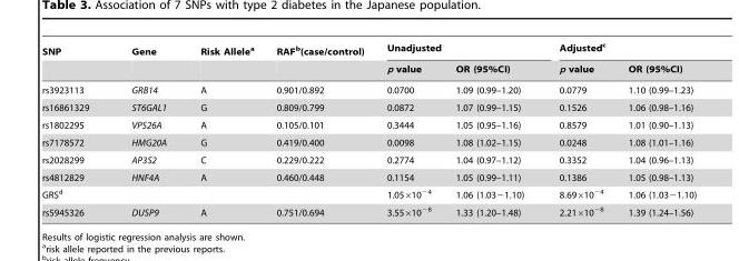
<table><thead><tr><td rowspan="2">SNP</td><td rowspan="2">Gene</td><td rowspan="2">Risk Allele<sup>a</sup></td><td rowspan="2">RAF<sup>b</sup>(case/control)</td><td colspan="2">Unadjusted</td><td colspan="2">Adjusted<sup>c</sup></td></tr><tr><td>p value</td><td>OR (95%CI)</td><td>p value</td><td>OR (95%CI)</td></tr></thead><tbody><tr><td>rs3923113</td><td>GRB14</td><td>A</td><td>0.901/0.892</td><td>0.0700</td><td>1.09 (0.99–1.20)</td><td>0.0779</td><td>1.10 (0.99–1.23)</td></tr><tr><td>rs16861329</td><td>ST6GAL1</td><td>G</td><td>0.809/0.799</td><td>0.0872</td><td>1.07 (0.99–1.15)</td><td>0.1526</td><td>1.06 (0.98–1.16)</td></tr><tr><td>rs1802295</td><td>VPS26A</td><td>A</td><td>0.105/0.101</td><td>0.3444</td><td>1.05 (0.95–1.16)</td><td>0.8579</td><td>1.01 (0.90–1.13)</td></tr><tr><td>rs7178572</td><td>HMG20A</td><td>G</td><td>0.419/0.400</td><td>0.0098</td><td>1.08 (1.02–1.15)</td><td>0.0248</td><td>1.08 (1.01–1.16)</td></tr><tr><td>rs2028299</td><td>AP3S2</td><td>C</td><td>0.229/0.222</td><td>0.2774</td><td>1.04 (0.97–1.12)</td><td>0.3352</td><td>1.04 (0.96–1.13)</td></tr><tr><td>rs4812829</td><td>HNF4A</td><td>A</td><td>0.460/0.448</td><td>0.1154</td><td>1.05 (0.99–1.11)</td><td>0.1386</td><td>1.05 (0.98–1.13)</td></tr><tr><td>GRS<sup>d</sup></td><td></td><td></td><td></td><td>1.05×10<sup>−4</sup></td><td>1.06 (1.03−1.10)</td><td>8.69×10<sup>−4</sup></td><td>1.06 (1.03−1.10)</td></tr><tr><td>rs5945326</td><td>DUSP9</td><td>A</td><td>0.751/0.694</td><td>3.55×10<sup>−8</sup></td><td>1.33 (1.20–1.48)</td><td>2.21×10<sup>−8</sup></td><td>1.39 (1.24–1.56)</td></tr></tbody></table>